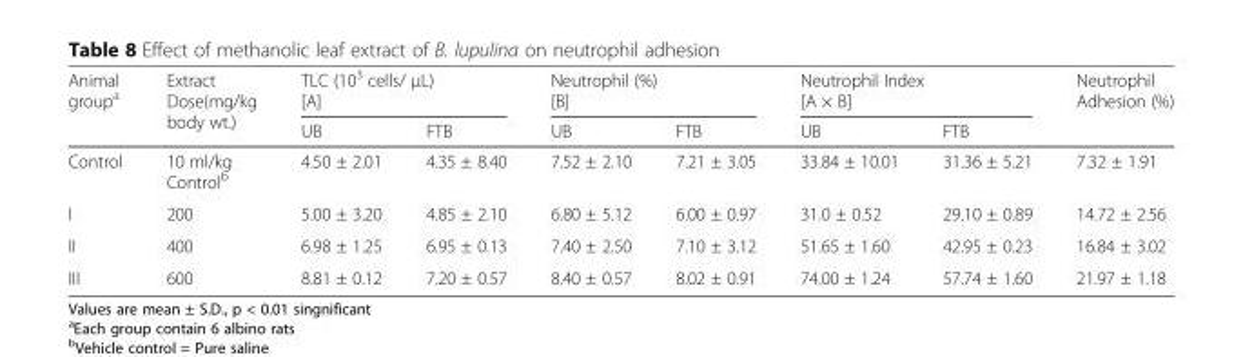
<table><thead><tr><td rowspan="2">Animal group<sup>a</sup></td><td rowspan="2">Extract Dose(mg/kg body wt.)</td><td colspan="2">TLC (10<sup>3</sup> cells/ μL) [A]</td><td colspan="2">Neutrophil (%) [B]</td><td colspan="2">Neutrophil Index [A × B]</td><td rowspan="2">Neutrophil Adhesion (%)</td></tr><tr><td>UB</td><td>FTB</td><td>UB</td><td>FTB</td><td>UB</td><td>FTB</td></tr></thead><tbody><tr><td>Control</td><td>10 ml/kg Control<sup>b</sup></td><td>4.50 ± 2.01</td><td>4.35 ± 8.40</td><td>7.52 ± 2.10</td><td>7.21 ± 3.05</td><td>33.84 ± 10.01</td><td>31.36 ± 5.21</td><td>7.32 ± 1.91</td></tr><tr><td>I</td><td>200</td><td>5.00 ± 3.20</td><td>4.85 ± 2.10</td><td>6.80 ± 5.12</td><td>6.00 ± 0.97</td><td>31.0 ± 0.52</td><td>29.10 ± 0.89</td><td>14.72 ± 2.56</td></tr><tr><td>II</td><td>400</td><td>6.98 ± 1.25</td><td>6.95 ± 0.13</td><td>7.40 ± 2.50</td><td>7.10 ± 3.12</td><td>51.65 ± 1.60</td><td>42.95 ± 0.23</td><td>16.84 ± 3.02</td></tr><tr><td>III</td><td>600</td><td>8.81 ± 0.12</td><td>7.20 ± 0.57</td><td>8.40 ± 0.57</td><td>8.02 ± 0.91</td><td>74.00 ± 1.24</td><td>57.74 ± 1.60</td><td>21.97 ± 1.18</td></tr></tbody></table>